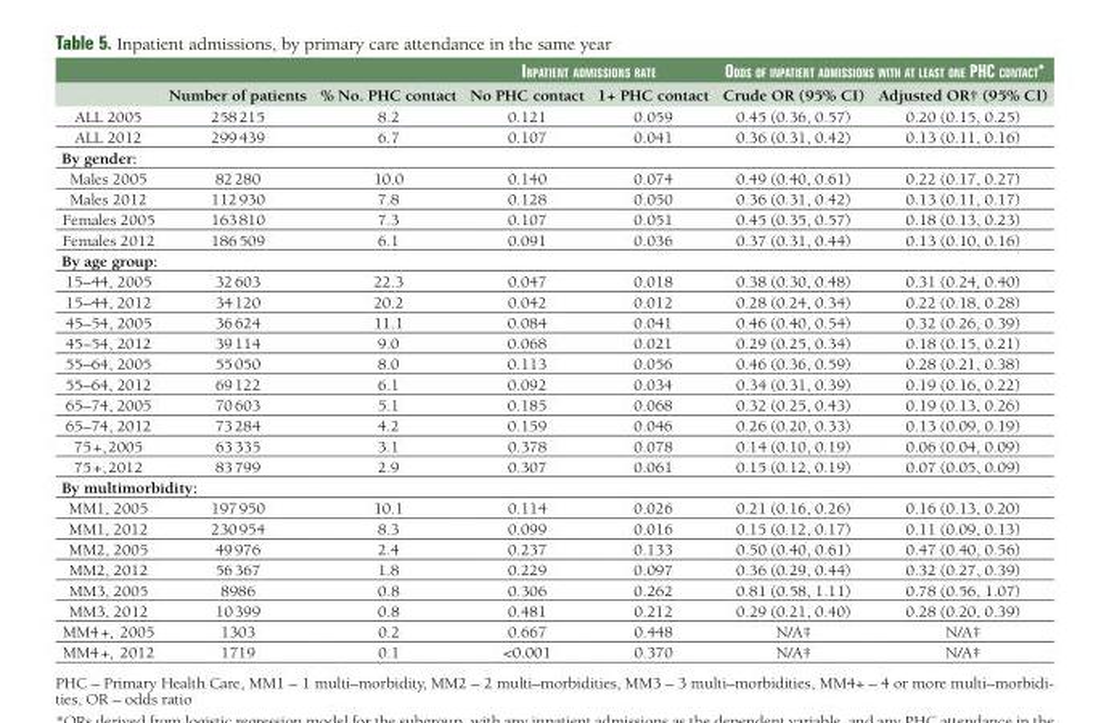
<table><thead><tr><td rowspan="2"></td><td rowspan="2">Number of patients</td><td rowspan="2">% No. PHC contact</td><td colspan="2">inPatient adMissiOns Rate</td><td colspan="2">Odds Of inPatient adMissiOns witH at Least One PHC COntaCt*</td></tr><tr><td>No PHC contact</td><td>1+ PHC contact</td><td>Crude OR (95% CI)</td><td>Adjusted OR† (95% CI)</td></tr></thead><tbody><tr><td>ALL 2005</td><td>258 215</td><td>8.2</td><td>0.121</td><td>0.059</td><td>0.45 (0.36, 0.57)</td><td>0.20 (0.15, 0.25)</td></tr><tr><td>ALL 2012</td><td>299 439</td><td>6.7</td><td>0.107</td><td>0.041</td><td>0.36 (0.31, 0.42)</td><td>0.13 (0.11, 0.16)</td></tr><tr><td colspan="7">By gender:</td></tr><tr><td>Males 2005</td><td>82 280</td><td>10.0</td><td>0.140</td><td>0.074</td><td>0.49 (0.40, 0.61)</td><td>0.22 (0.17, 0.27)</td></tr><tr><td>Males 2012</td><td>112 930</td><td>7.8</td><td>0.128</td><td>0.050</td><td>0.36 (0.31, 0.42)</td><td>0.13 (0.11, 0.17)</td></tr><tr><td>Females 2005</td><td>163 810</td><td>7.3</td><td>0.107</td><td>0.051</td><td>0.45 (0.35, 0.57)</td><td>0.18 (0.13, 0.23)</td></tr><tr><td>Females 2012</td><td>186 509</td><td>6.1</td><td>0.091</td><td>0.036</td><td>0.37 (0.31, 0.44)</td><td>0.13 (0.10, 0.16)</td></tr><tr><td colspan="7">By age group:</td></tr><tr><td>15–44, 2005</td><td>32 603</td><td>22.3</td><td>0.047</td><td>0.018</td><td>0.38 (0.30, 0.48)</td><td>0.31 (0.24, 0.40)</td></tr><tr><td>15–44, 2012</td><td>34 120</td><td>20.2</td><td>0.042</td><td>0.012</td><td>0.28 (0.24, 0.34)</td><td>0.22 (0.18, 0.28)</td></tr><tr><td>45–54, 2005</td><td>36 624</td><td>11.1</td><td>0.084</td><td>0.041</td><td>0.46 (0.40, 0.54)</td><td>0.32 (0.26, 0.39)</td></tr><tr><td>45–54, 2012</td><td>39 114</td><td>9.0</td><td>0.068</td><td>0.021</td><td>0.29 (0.25, 0.34)</td><td>0.18 (0.15, 0.21)</td></tr><tr><td>55–64, 2005</td><td>55 050</td><td>8.0</td><td>0.113</td><td>0.056</td><td>0.46 (0.36, 0.59)</td><td>0.28 (0.21, 0.38)</td></tr><tr><td>55–64, 2012</td><td>69 122</td><td>6.1</td><td>0.092</td><td>0.034</td><td>0.34 (0.31, 0.39)</td><td>0.19 (0.16, 0.22)</td></tr><tr><td>65–74, 2005</td><td>70 603</td><td>5.1</td><td>0.185</td><td>0.068</td><td>0.32 (0.25, 0.43)</td><td>0.19 (0.13, 0.26)</td></tr><tr><td>65–74, 2012</td><td>73 284</td><td>4.2</td><td>0.159</td><td>0.046</td><td>0.26 (0.20, 0.33)</td><td>0.13 (0.09, 0.19)</td></tr><tr><td>75 +, 2005</td><td>63 335</td><td>3.1</td><td>0.378</td><td>0.078</td><td>0.14 (0.10, 0.19)</td><td>0.06 (0.04, 0.09)</td></tr><tr><td>75 +, 2012</td><td>83 799</td><td>2.9</td><td>0.307</td><td>0.061</td><td>0.15 (0.12, 0.19)</td><td>0.07 (0.05, 0.09)</td></tr><tr><td colspan="7">By multimorbidity:</td></tr><tr><td>MM1, 2005</td><td>197 950</td><td>10.1</td><td>0.114</td><td>0.026</td><td>0.21 (0.16, 0.26)</td><td>0.16 (0.13, 0.20)</td></tr><tr><td>MM1, 2012</td><td>230 954</td><td>8.3</td><td>0.099</td><td>0.016</td><td>0.15 (0.12, 0.17)</td><td>0.11 (0.09, 0.13)</td></tr><tr><td>MM2, 2005</td><td>49 976</td><td>2.4</td><td>0.237</td><td>0.133</td><td>0.50 (0.40, 0.61)</td><td>0.47 (0.40, 0.56)</td></tr><tr><td>MM2, 2012</td><td>56 367</td><td>1.8</td><td>0.229</td><td>0.097</td><td>0.36 (0.29, 0.44)</td><td>0.32 (0.27, 0.39)</td></tr><tr><td>MM3, 2005</td><td>8986</td><td>0.8</td><td>0.306</td><td>0.262</td><td>0.81 (0.58, 1.11)</td><td>0.78 (0.56, 1.07)</td></tr><tr><td>MM3, 2012</td><td>10 399</td><td>0.8</td><td>0.481</td><td>0.212</td><td>0.29 (0.21, 0.40)</td><td>0.28 (0.20, 0.39)</td></tr><tr><td>MM4 +, 2005</td><td>1303</td><td>0.2</td><td>0.667</td><td>0.448</td><td>N/A‡</td><td>N/A‡</td></tr><tr><td>MM4 +, 2012</td><td>1719</td><td>0.1</td><td>&lt;0.001</td><td>0.370</td><td>N/A‡</td><td>N/A‡</td></tr></tbody></table>